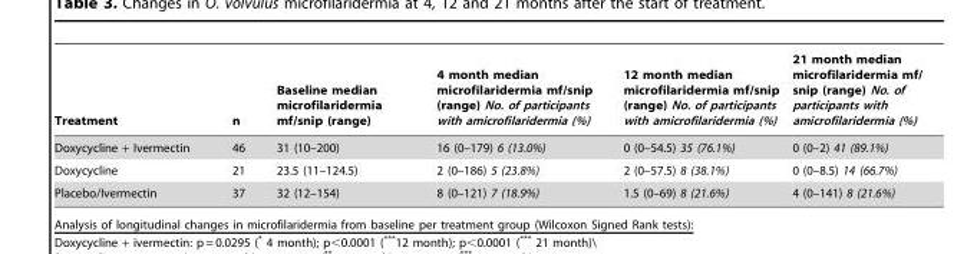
<table><thead><tr><td>Treatment</td><td>n</td><td>Baseline median microfilaridermia mf/snip (range)</td><td>4 month median microfilaridermia mf/snip (range) No. of participants with amicrofilaridermia (%)</td><td>12 month median microfilaridermia mf/snip (range) No. of participants with amicrofilaridermia (%)</td><td>21 month median microfilaridermia mf/ snip (range) No. of participants with amicrofilaridermia (%)</td></tr></thead><tbody><tr><td>Doxycycline + Ivermectin</td><td>46</td><td>31 (10–200)</td><td>16 (0–179) 6 (13.0%)</td><td>0 (0–54.5) 35 (76.1%)</td><td>0 (0–2) 41 (89.1%)</td></tr><tr><td>Doxycycline</td><td>21</td><td>23.5 (11–124.5)</td><td>2 (0–186) 5 (23.8%)</td><td>2 (0–57.5) 8 (38.1%)</td><td>0 (0–8.5) 14 (66.7%)</td></tr><tr><td>Placebo/Ivermectin</td><td>37</td><td>32 (12–154)</td><td>8 (0–121) 7 (18.9%)</td><td>1.5 (0–69) 8 (21.6%)</td><td>4 (0–141) 8 (21.6%)</td></tr></tbody></table>